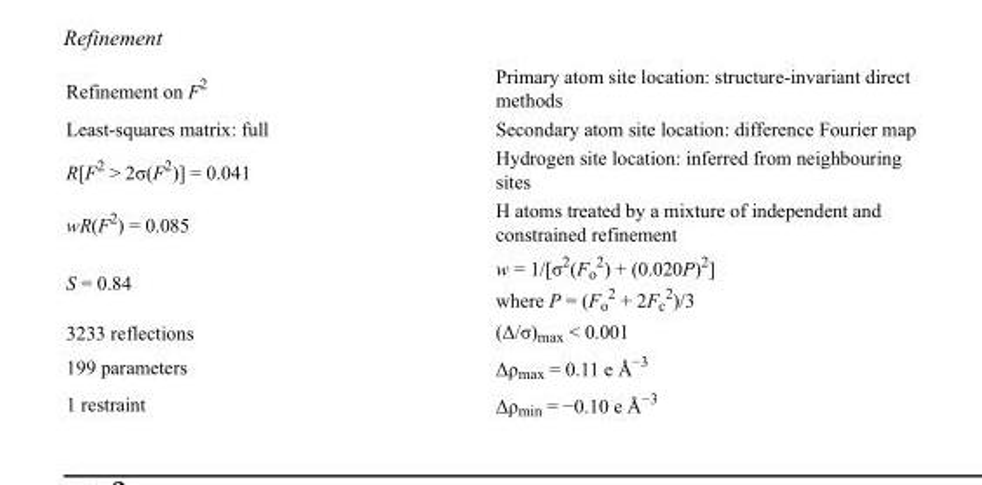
<table><tbody><tr><td>Refinement on F<sup>2</sup></td><td>Primary atom site location: structure-invariant direct methods</td></tr><tr><td>Least-squares matrix: full</td><td>Secondary atom site location: difference Fourier map</td></tr><tr><td>R[F<sup>2</sup> &gt; 2σ(F<sup>2</sup>)] = 0.041</td><td>Hydrogen site location: inferred from neighbouring sites</td></tr><tr><td>wR(F<sup>2</sup>) = 0.085</td><td>H atoms treated by a mixture of independent and constrained refinement</td></tr><tr><td>S = 0.84</td><td>w = 1/[σ<sup>2</sup>(F<sub>o</sub> <sup>2</sup>) + (0.020P)<sup>2</sup>] where P = (F<sub>o</sub> <sup>2</sup> + 2F<sub>c</sub> <sup>2</sup>)/3</td></tr><tr><td>3233 reflections</td><td>(Δ/σ)<sub>max</sub> &lt; 0.001</td></tr><tr><td>199 parameters</td><td>Δρ<sub>max</sub> = 0.11 e Å<sup>−3</sup></td></tr><tr><td>1 restraint</td><td>Δρ<sub>min</sub> = −0.10 e Å<sup>−3</sup></td></tr></tbody></table>